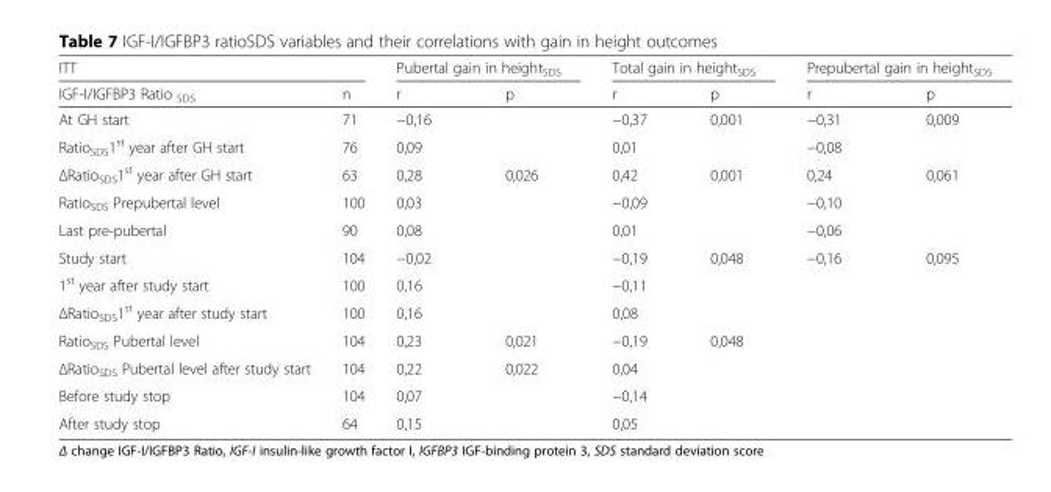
<table><thead><tr><td colspan="2">ITT</td><td colspan="2">Pubertal gain in height<sub>SDS</sub></td><td colspan="2">Total gain in height<sub>SDS</sub></td><td colspan="2">Prepubertal gain in height<sub>SDS</sub></td></tr><tr><td>IGF-I/IGFBP3 Ratio <sub>SDS</sub></td><td>n</td><td>r</td><td>p</td><td>r</td><td>p</td><td>r</td><td>p</td></tr></thead><tbody><tr><td>At GH start</td><td>71</td><td>−0,16</td><td></td><td>−0,37</td><td>0,001</td><td>−0,31</td><td>0,009</td></tr><tr><td>Ratio<sub>SDS</sub>1<sup>st</sup> year after GH start</td><td>76</td><td>0,09</td><td></td><td>0,01</td><td></td><td>−0,08</td><td></td></tr><tr><td>ΔRatioSDS1st year after GH start</td><td>63</td><td>0,28</td><td>0,026</td><td>0,42</td><td>0,001</td><td>0,24</td><td>0,061</td></tr><tr><td>Ratio<sub>SDS</sub> Prepubertal level</td><td>100</td><td>0,03</td><td></td><td>−0,09</td><td></td><td>−0,10</td><td></td></tr><tr><td>Last pre-pubertal</td><td>90</td><td>0,08</td><td></td><td>0,01</td><td></td><td>−0,06</td><td></td></tr><tr><td>Study start</td><td>104</td><td>−0,02</td><td></td><td>−0,19</td><td>0,048</td><td>−0,16</td><td>0,095</td></tr><tr><td>1<sup>st</sup> year after study start</td><td>100</td><td>0,16</td><td></td><td>−0,11</td><td></td><td></td><td></td></tr><tr><td>ΔRatioSDS1st year after study start</td><td>100</td><td>0,16</td><td></td><td>0,08</td><td></td><td></td><td></td></tr><tr><td>Ratio<sub>SDS</sub> Pubertal level</td><td>104</td><td>0,23</td><td>0,021</td><td>−0,19</td><td>0,048</td><td></td><td></td></tr><tr><td>ΔRatioSDS Pubertal level after study start</td><td>104</td><td>0,22</td><td>0,022</td><td>0,04</td><td></td><td></td><td></td></tr><tr><td>Before study stop</td><td>104</td><td>0,07</td><td></td><td>−0,14</td><td></td><td></td><td></td></tr><tr><td>After study stop</td><td>64</td><td>0,15</td><td></td><td>0,05</td><td></td><td></td><td></td></tr></tbody></table>